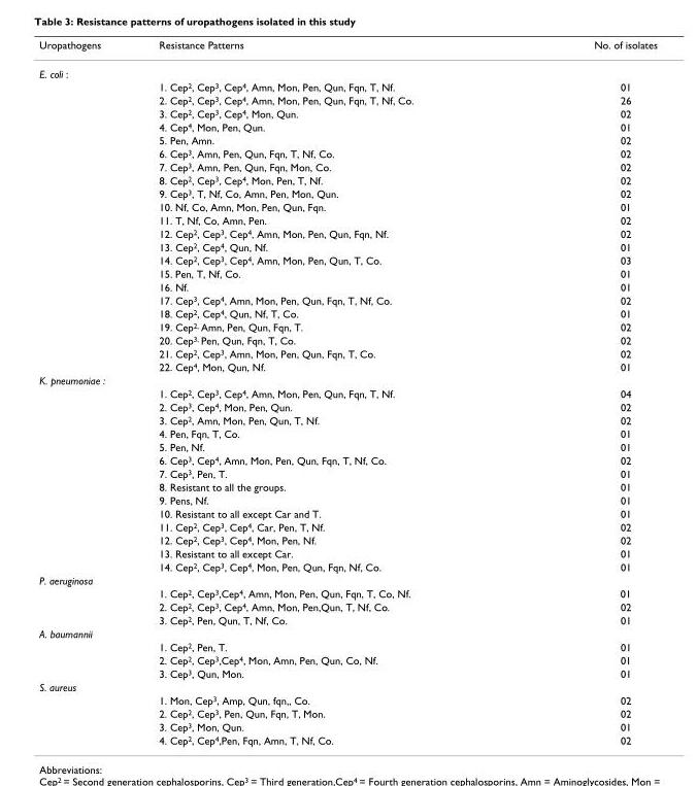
<table><thead><tr><td>Uropathogens</td><td>Resistance Patterns</td><td>No. of isolates</td></tr></thead><tbody><tr><td colspan="3">E. coli :</td></tr><tr><td></td><td>1. Cep<sup>2</sup>, Cep<sup>3</sup>, Cep<sup>4</sup>, Amn, Mon, Pen, Qun, Fqn, T, Nf.</td><td>01</td></tr><tr><td></td><td>2. Cep<sup>2</sup>, Cep<sup>3</sup>, Cep<sup>4</sup>, Amn, Mon, Pen, Qun, Fqn, T, Nf, Co.</td><td>26</td></tr><tr><td></td><td>3. Cep<sup>2</sup>, Cep<sup>3</sup>, Cep<sup>4</sup>, Mon, Qun.</td><td>02</td></tr><tr><td></td><td>4. Cep<sup>4</sup>, Mon, Pen, Qun.</td><td>01</td></tr><tr><td></td><td>5. Pen, Amn.</td><td>02</td></tr><tr><td></td><td>6. Cep<sup>3</sup>, Amn, Pen, Qun, Fqn, T, Nf, Co.</td><td>02</td></tr><tr><td></td><td>7. Cep<sup>3</sup>, Amn, Pen, Qun, Fqn, Mon, Co.</td><td>02</td></tr><tr><td></td><td>8. Cep<sup>2</sup>, Cep<sup>3</sup>, Cep<sup>4</sup>, Mon, Pen, T, Nf.</td><td>02</td></tr><tr><td></td><td>9. Cep<sup>3</sup>, T, Nf, Co, Amn, Pen, Mon, Qun.</td><td>02</td></tr><tr><td></td><td>10. Nf, Co, Amn, Mon, Pen, Qun, Fqn.</td><td>01</td></tr><tr><td></td><td>11. T, Nf, Co, Amn, Pen.</td><td>02</td></tr><tr><td></td><td>12. Cep<sup>2</sup>, Cep<sup>3</sup>, Cep<sup>4</sup>, Amn, Mon, Pen, Qun, Fqn, Nf.</td><td>02</td></tr><tr><td></td><td>13. Cep<sup>2</sup>, Cep<sup>4</sup>, Qun, Nf.</td><td>01</td></tr><tr><td></td><td>14. Cep<sup>2</sup>, Cep<sup>3</sup>, Cep<sup>4</sup>, Amn, Mon, Pen, Qun, T, Co.</td><td>03</td></tr><tr><td></td><td>15. Pen, T, Nf, Co.</td><td>01</td></tr><tr><td></td><td>16. Nf.</td><td>01</td></tr><tr><td></td><td>17. Cep<sup>3</sup>, Cep<sup>4</sup>, Amn, Mon, Pen, Qun, Fqn, T, Nf, Co.</td><td>02</td></tr><tr><td></td><td>18. Cep<sup>2</sup>, Cep<sup>4</sup>, Qun, Nf, T, Co.</td><td>01</td></tr><tr><td></td><td>19. Cep<sup>2,</sup> Amn, Pen, Qun, Fqn, T.</td><td>02</td></tr><tr><td></td><td>20. Cep<sup>3,</sup> Pen, Qun, Fqn, T, Co.</td><td>02</td></tr><tr><td></td><td>21. Cep<sup>2</sup>, Cep<sup>3</sup>, Amn, Mon, Pen, Qun, Fqn, T, Co.</td><td>02</td></tr><tr><td></td><td>22. Cep<sup>4</sup>, Mon, Qun, Nf.</td><td>01</td></tr><tr><td colspan="3">K. pneumoniae :</td></tr><tr><td></td><td>1. Cep<sup>2</sup>, Cep<sup>3</sup>, Cep<sup>4</sup>, Amn, Mon, Pen, Qun, Fqn, T, Nf.</td><td>04</td></tr><tr><td></td><td>2. Cep<sup>3</sup>, Cep<sup>4</sup>, Mon, Pen, Qun.</td><td>02</td></tr><tr><td></td><td>3. Cep<sup>2</sup>, Amn, Mon, Pen, Qun, T, Nf.</td><td>02</td></tr><tr><td></td><td>4. Pen, Fqn, T, Co.</td><td>01</td></tr><tr><td></td><td>5. Pen, Nf.</td><td>01</td></tr><tr><td></td><td>6. Cep<sup>3</sup>, Cep<sup>4</sup>, Amn, Mon, Pen, Qun, Fqn, T, Nf, Co.</td><td>02</td></tr><tr><td></td><td>7. Cep<sup>3</sup>, Pen, T.</td><td>01</td></tr><tr><td></td><td>8. Resistant to all the groups.</td><td>01</td></tr><tr><td></td><td>9. Pens, Nf.</td><td>01</td></tr><tr><td></td><td>10. Resistant to all except Car and T.</td><td>01</td></tr><tr><td></td><td>11. Cep<sup>2</sup>, Cep<sup>3</sup>, Cep<sup>4</sup>, Car, Pen, T, Nf.</td><td>02</td></tr><tr><td></td><td>12. Cep<sup>2</sup>, Cep<sup>3</sup>, Cep<sup>4</sup>, Mon, Pen, Nf.</td><td>02</td></tr><tr><td></td><td>13. Resistant to all except Car.</td><td>01</td></tr><tr><td></td><td>14. Cep<sup>2</sup>, Cep<sup>3</sup>, Cep<sup>4</sup>, Mon, Pen, Qun, Fqn, Nf, Co.</td><td>01</td></tr><tr><td colspan="3">P. aeruginosa</td></tr><tr><td></td><td>1. Cep<sup>2</sup>, Cep<sup>3</sup>,Cep<sup>4</sup>, Amn, Mon, Pen, Qun, Fqn, T, Co, Nf.</td><td>01</td></tr><tr><td></td><td>2. Cep<sup>2</sup>, Cep<sup>3</sup>, Cep<sup>4</sup>, Amn, Mon, Pen,Qun, T, Nf, Co.</td><td>02</td></tr><tr><td></td><td>3. Cep<sup>2</sup>, Pen, Qun, T, Nf, Co.</td><td>01</td></tr><tr><td colspan="3">A. baumannii</td></tr><tr><td></td><td>1. Cep<sup>2</sup>, Pen, T.</td><td>01</td></tr><tr><td></td><td>2. Cep<sup>2</sup>, Cep<sup>3</sup>,Cep<sup>4</sup>, Mon, Amn, Pen, Qun, Co, Nf.</td><td>01</td></tr><tr><td></td><td>3. Cep<sup>3</sup>, Qun, Mon.</td><td>01</td></tr><tr><td colspan="3">S. aureus</td></tr><tr><td></td><td>1. Mon, Cep<sup>3</sup>, Amp, Qun, fqn,, Co.</td><td>02</td></tr><tr><td></td><td>2. Cep<sup>2</sup>, Cep<sup>3</sup>, Pen, Qun, Fqn, T, Mon.</td><td>02</td></tr><tr><td></td><td>3. Cep<sup>3</sup>, Mon, Qun.</td><td>01</td></tr><tr><td></td><td>4. Cep<sup>2</sup>, Cep<sup>4</sup>,Pen, Fqn, Amn, T, Nf, Co.</td><td>02</td></tr></tbody></table>